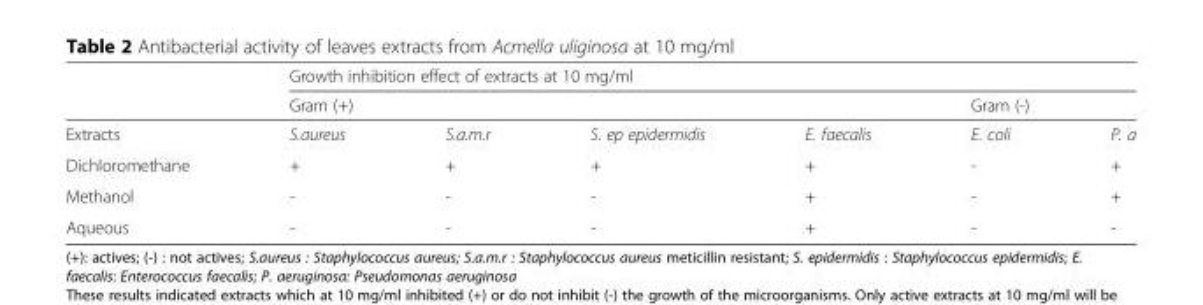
<table><thead><tr><td rowspan="3">Extracts</td><td colspan="6">Growth inhibition effect of extracts at 10 mg/ml</td></tr><tr><td colspan="4">Gram (+)</td><td colspan="2">Gram (-)</td></tr><tr><td>S.aureus</td><td>S.a.m.r</td><td>S. ep epidermidis</td><td>E. faecalis</td><td>E. coli</td><td>P. a</td></tr></thead><tbody><tr><td>Dichloromethane</td><td>+</td><td>+</td><td>+</td><td>+</td><td>-</td><td>+</td></tr><tr><td>Methanol</td><td>-</td><td>-</td><td>-</td><td>+</td><td>-</td><td>+</td></tr><tr><td>Aqueous</td><td>-</td><td>-</td><td>-</td><td>+</td><td>-</td><td>-</td></tr></tbody></table>